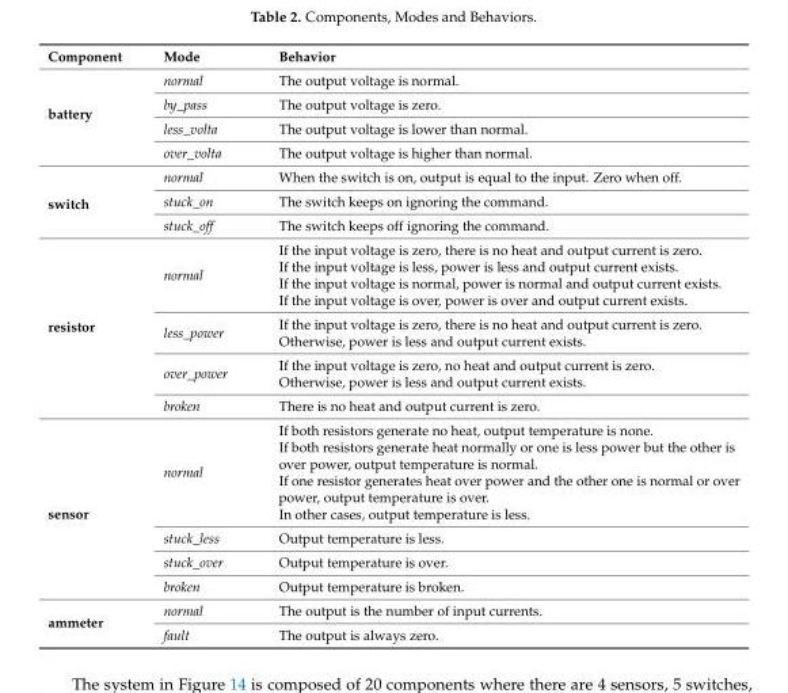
<table><thead><tr><td>Component</td><td>Mode</td><td>Behavior</td></tr></thead><tbody><tr><td rowspan="4">battery</td><td>normal</td><td>The output voltage is normal.</td></tr><tr><td>by_pass</td><td>The output voltage is zero.</td></tr><tr><td>less_volta</td><td>The output voltage is lower than normal.</td></tr><tr><td>over_volta</td><td>The output voltage is higher than normal.</td></tr><tr><td rowspan="3">switch</td><td>normal</td><td>When the switch is on, output is equal to the input. Zero when off.</td></tr><tr><td>stuck_on</td><td>The switch keeps on ignoring the command.</td></tr><tr><td>stuck_off</td><td>The switch keeps off ignoring the command.</td></tr><tr><td rowspan="4">resistor</td><td>normal</td><td>If the input voltage is zero, there is no heat and output current is zero. If the input voltage is less, power is less and output current exists. If the input voltage is normal, power is normal and output current exists. If the input voltage is over, power is over and output current exists.</td></tr><tr><td>less_power</td><td>If the input voltage is zero, there is no heat and output current is zero. Otherwise, power is less and output current exists.</td></tr><tr><td>over_power</td><td>If the input voltage is zero, no heat and output current is zero. Otherwise, power is less and output current exists.</td></tr><tr><td>broken</td><td>There is no heat and output current is zero.</td></tr><tr><td rowspan="4">sensor</td><td>normal</td><td>If both resistors generate no heat, output temperature is none. If both resistors generate heat normally or one is less power but the other is over power, output temperature is normal. If one resistor generates heat over power and the other one is normal or over power, output temperature is over. In other cases, output temperature is less.</td></tr><tr><td>stuck_less</td><td>Output temperature is less.</td></tr><tr><td>stuck_over</td><td>Output temperature is over.</td></tr><tr><td>broken</td><td>Output temperature is broken.</td></tr><tr><td rowspan="2">ammeter</td><td>normal</td><td>The output is the number of input currents.</td></tr><tr><td>fault</td><td>The output is always zero.</td></tr></tbody></table>